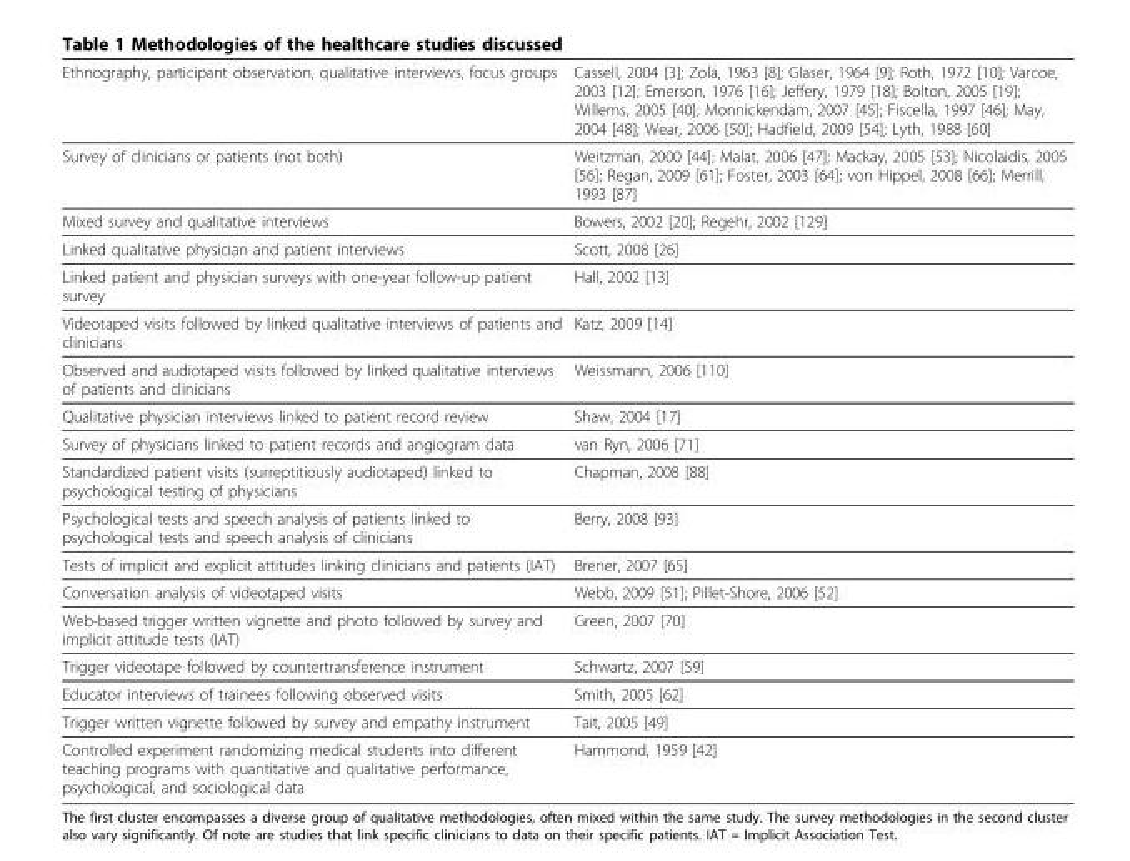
<table><thead><tr><td>Ethnography, participant observation, qualitative interviews, focus groups</td><td>Cassell, 2004 [3]; Zola, 1963 [8]; Glaser, 1964 [9]; Roth, 1972 [10]; Varcoe, 2003 [12]; Emerson, 1976 [16]; Jeffery, 1979 [18]; Bolton, 2005 [19]; Willems, 2005 [40]; Monnickendam, 2007 [45]; Fiscella, 1997 [46]; May, 2004 [48]; Wear, 2006 [50]; Hadfield, 2009 [54]; Lyth, 1988 [60]</td></tr></thead><tbody><tr><td>Survey of clinicians or patients (not both)</td><td>Weitzman, 2000 [44]; Malat, 2006 [47]; Mackay, 2005 [53]; Nicolaidis, 2005 [56]; Regan, 2009 [61]; Foster, 2003 [64]; von Hippel, 2008 [66]; Merrill, 1993 [87]</td></tr><tr><td>Mixed survey and qualitative interviews</td><td>Bowers, 2002 [20]; Regehr, 2002 [129]</td></tr><tr><td>Linked qualitative physician and patient interviews</td><td>Scott, 2008 [26]</td></tr><tr><td>Linked patient and physician surveys with one-year follow-up patient survey</td><td>Hall, 2002 [13]</td></tr><tr><td>Videotaped visits followed by linked qualitative interviews of patients and clinicians</td><td>Katz, 2009 [14]</td></tr><tr><td>Observed and audiotaped visits followed by linked qualitative interviews of patients and clinicians</td><td>Weissmann, 2006 [110]</td></tr><tr><td>Qualitative physician interviews linked to patient record review</td><td>Shaw, 2004 [17]</td></tr><tr><td>Survey of physicians linked to patient records and angiogram data</td><td>van Ryn, 2006 [71]</td></tr><tr><td>Standardized patient visits (surreptitiously audiotaped) linked to psychological testing of physicians</td><td>Chapman, 2008 [88]</td></tr><tr><td>Psychological tests and speech analysis of patients linked to psychological tests and speech analysis of clinicians</td><td>Berry, 2008 [93]</td></tr><tr><td>Tests of implicit and explicit attitudes linking clinicians and patients (IAT)</td><td>Brener, 2007 [65]</td></tr><tr><td>Conversation analysis of videotaped visits</td><td>Webb, 2009 [51]; Pillet-Shore, 2006 [52]</td></tr><tr><td>Web-based trigger written vignette and photo followed by survey and implicit attitude tests (IAT)</td><td>Green, 2007 [70]</td></tr><tr><td>Trigger videotape followed by countertransference instrument</td><td>Schwartz, 2007 [59]</td></tr><tr><td>Educator interviews of trainees following observed visits</td><td>Smith, 2005 [62]</td></tr><tr><td>Trigger written vignette followed by survey and empathy instrument</td><td>Tait, 2005 [49]</td></tr><tr><td>Controlled experiment randomizing medical students into different teaching programs with quantitative and qualitative performance, psychological, and sociological data</td><td>Hammond, 1959 [42]</td></tr></tbody></table>